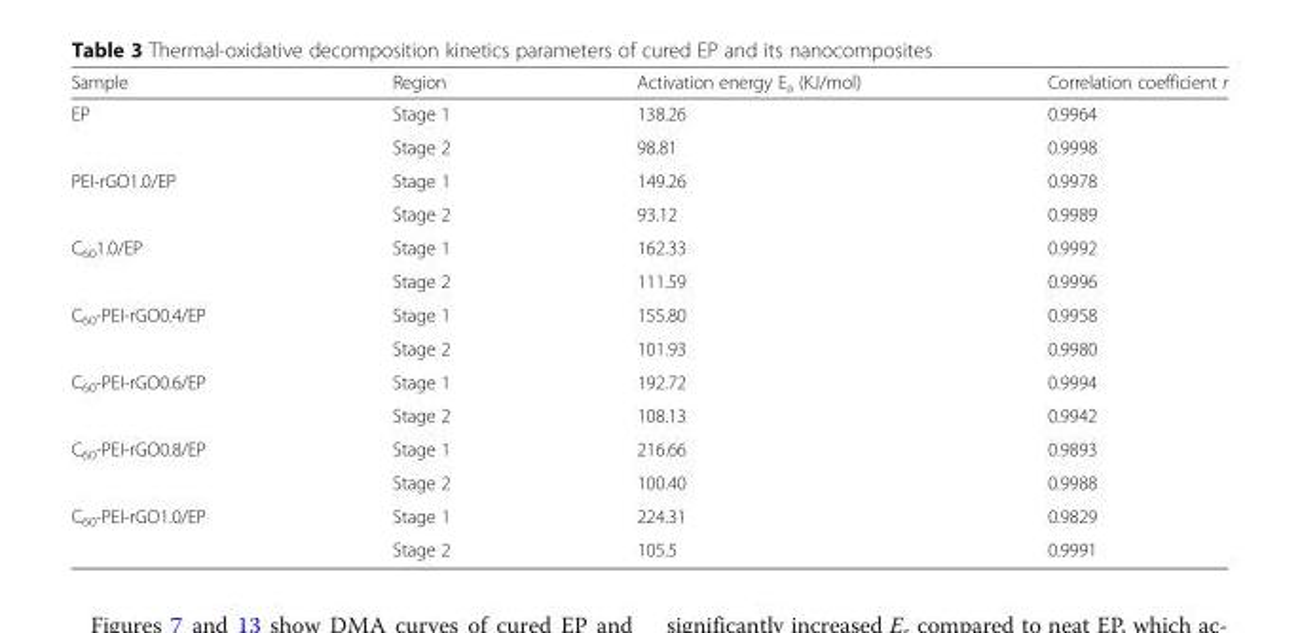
<table><thead><tr><td>Sample</td><td>Region</td><td>Activation energy E<sub>a</sub> (KJ/mol)</td><td>Correlation coefficient r</td></tr></thead><tbody><tr><td rowspan="2">EP</td><td>Stage 1</td><td>138.26</td><td>0.9964</td></tr><tr><td>Stage 2</td><td>98.81</td><td>0.9998</td></tr><tr><td rowspan="2">PEI-rGO1.0/EP</td><td>Stage 1</td><td>149.26</td><td>0.9978</td></tr><tr><td>Stage 2</td><td>93.12</td><td>0.9989</td></tr><tr><td rowspan="2">C<sub>60</sub>1.0/EP</td><td>Stage 1</td><td>162.33</td><td>0.9992</td></tr><tr><td>Stage 2</td><td>111.59</td><td>0.9996</td></tr><tr><td rowspan="2">C<sub>60</sub>-PEI-rGO0.4/EP</td><td>Stage 1</td><td>155.80</td><td>0.9958</td></tr><tr><td>Stage 2</td><td>101.93</td><td>0.9980</td></tr><tr><td rowspan="2">C<sub>60</sub>-PEI-rGO0.6/EP</td><td>Stage 1</td><td>192.72</td><td>0.9994</td></tr><tr><td>Stage 2</td><td>108.13</td><td>0.9942</td></tr><tr><td rowspan="2">C<sub>60</sub>-PEI-rGO0.8/EP</td><td>Stage 1</td><td>216.66</td><td>0.9893</td></tr><tr><td>Stage 2</td><td>100.40</td><td>0.9988</td></tr><tr><td rowspan="2">C<sub>60</sub>-PEI-rGO1.0/EP</td><td>Stage 1</td><td>224.31</td><td>0.9829</td></tr><tr><td>Stage 2</td><td>105.5</td><td>0.9991</td></tr></tbody></table>